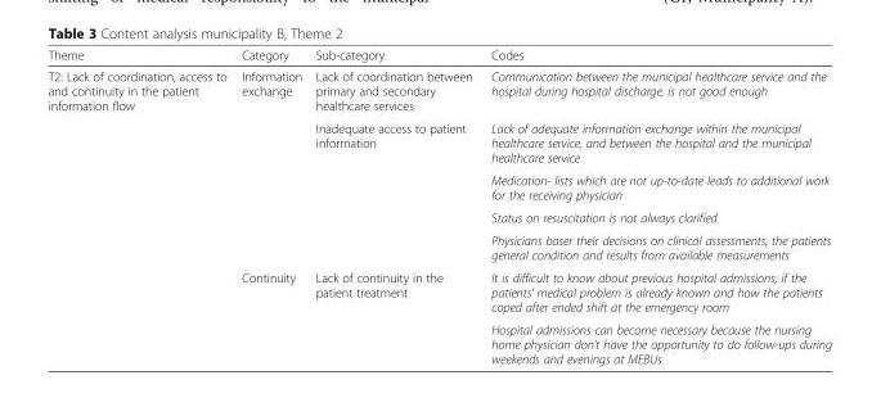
<table><thead><tr><td>Theme</td><td>Category</td><td>Sub-category</td><td>Codes</td></tr></thead><tbody><tr><td rowspan="7">T2: Lack of coordination, access to and continuity in the patient information flow</td><td rowspan="5">Information exchange</td><td>Lack of coordination between primary and secondary healthcare services</td><td>Communication between the municipal healthcare service and the hospital during hospital discharge, is not good enough</td></tr><tr><td rowspan="4">Inadequate access to patient information</td><td>Lack of adequate information exchange within the municipal healthcare service, and between the hospital and the municipal healthcare service</td></tr><tr><td>Medication- lists which are not up-to-date leads to additional work for the receiving physician</td></tr><tr><td>Status on resuscitation is not always clarified</td></tr><tr><td>Physicians baser their decisions on clinical assessments, the patients general condition and results from available measurements</td></tr><tr><td rowspan="2">Continuity</td><td rowspan="2">Lack of continuity in the patient treatment</td><td>It is difficult to know about previous hospital admissions; if the patients’ medical problem is already known and how the patients coped after ended shift at the emergency room</td></tr><tr><td>Hospital admissions can become necessary because the nursing home physician don’t have the opportunity to do follow-ups during weekends and evenings at MEBUs</td></tr></tbody></table>